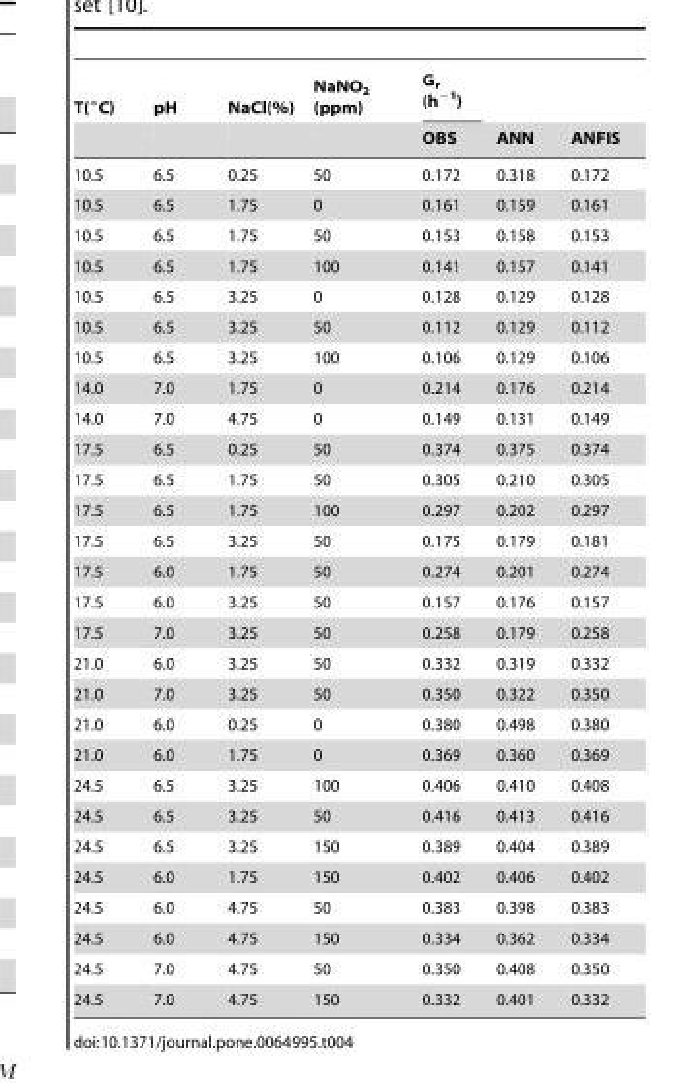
<table><thead><tr><td rowspan="2">T(°C)</td><td rowspan="2">pH</td><td rowspan="2">NaCl(%)</td><td rowspan="2">NaNO<sub>2</sub> (ppm)</td><td rowspan="2">G<sub>r</sub> (h<sup>−1</sup>) OBS</td><td rowspan="2">ANN</td><td rowspan="2">ANFIS</td></tr><tr></tr></thead><tbody><tr><td>10.5</td><td>6.5</td><td>0.25</td><td>50</td><td>0.172</td><td>0.318</td><td>0.172</td></tr><tr><td>10.5</td><td>6.5</td><td>1.75</td><td>0</td><td>0.161</td><td>0.159</td><td>0.161</td></tr><tr><td>10.5</td><td>6.5</td><td>1.75</td><td>50</td><td>0.153</td><td>0.158</td><td>0.153</td></tr><tr><td>10.5</td><td>6.5</td><td>1.75</td><td>100</td><td>0.141</td><td>0.157</td><td>0.141</td></tr><tr><td>10.5</td><td>6.5</td><td>3.25</td><td>0</td><td>0.128</td><td>0.129</td><td>0.128</td></tr><tr><td>10.5</td><td>6.5</td><td>3.25</td><td>50</td><td>0.112</td><td>0.129</td><td>0.112</td></tr><tr><td>10.5</td><td>6.5</td><td>3.25</td><td>100</td><td>0.106</td><td>0.129</td><td>0.106</td></tr><tr><td>14.0</td><td>7.0</td><td>1.75</td><td>0</td><td>0.214</td><td>0.176</td><td>0.214</td></tr><tr><td>14.0</td><td>7.0</td><td>4.75</td><td>0</td><td>0.149</td><td>0.131</td><td>0.149</td></tr><tr><td>17.5</td><td>6.5</td><td>0.25</td><td>50</td><td>0.374</td><td>0.375</td><td>0.374</td></tr><tr><td>17.5</td><td>6.5</td><td>1.75</td><td>50</td><td>0.305</td><td>0.210</td><td>0.305</td></tr><tr><td>17.5</td><td>6.5</td><td>1.75</td><td>100</td><td>0.297</td><td>0.202</td><td>0.297</td></tr><tr><td>17.5</td><td>6.5</td><td>3.25</td><td>50</td><td>0.175</td><td>0.179</td><td>0.181</td></tr><tr><td>17.5</td><td>6.0</td><td>1.75</td><td>50</td><td>0.274</td><td>0.201</td><td>0.274</td></tr><tr><td>17.5</td><td>6.0</td><td>3.25</td><td>50</td><td>0.157</td><td>0.176</td><td>0.157</td></tr><tr><td>17.5</td><td>7.0</td><td>3.25</td><td>50</td><td>0.258</td><td>0.179</td><td>0.258</td></tr><tr><td>21.0</td><td>6.0</td><td>3.25</td><td>50</td><td>0.332</td><td>0.319</td><td>0.332</td></tr><tr><td>21.0</td><td>7.0</td><td>3.25</td><td>50</td><td>0.350</td><td>0.322</td><td>0.350</td></tr><tr><td>21.0</td><td>6.0</td><td>0.25</td><td>0</td><td>0.380</td><td>0.498</td><td>0.380</td></tr><tr><td>21.0</td><td>6.0</td><td>1.75</td><td>0</td><td>0.369</td><td>0.360</td><td>0.369</td></tr><tr><td>24.5</td><td>6.5</td><td>3.25</td><td>100</td><td>0.406</td><td>0.410</td><td>0.408</td></tr><tr><td>24.5</td><td>6.5</td><td>3.25</td><td>50</td><td>0.416</td><td>0.413</td><td>0.416</td></tr><tr><td>24.5</td><td>6.5</td><td>3.25</td><td>150</td><td>0.389</td><td>0.404</td><td>0.389</td></tr><tr><td>24.5</td><td>6.0</td><td>1.75</td><td>150</td><td>0.402</td><td>0.406</td><td>0.402</td></tr><tr><td>24.5</td><td>6.0</td><td>4.75</td><td>50</td><td>0.383</td><td>0.398</td><td>0.383</td></tr><tr><td>24.5</td><td>6.0</td><td>4.75</td><td>150</td><td>0.334</td><td>0.362</td><td>0.334</td></tr><tr><td>24.5</td><td>7.0</td><td>4.75</td><td>50</td><td>0.350</td><td>0.408</td><td>0.350</td></tr><tr><td>24.5</td><td>7.0</td><td>4.75</td><td>150</td><td>0.332</td><td>0.401</td><td>0.332</td></tr></tbody></table>